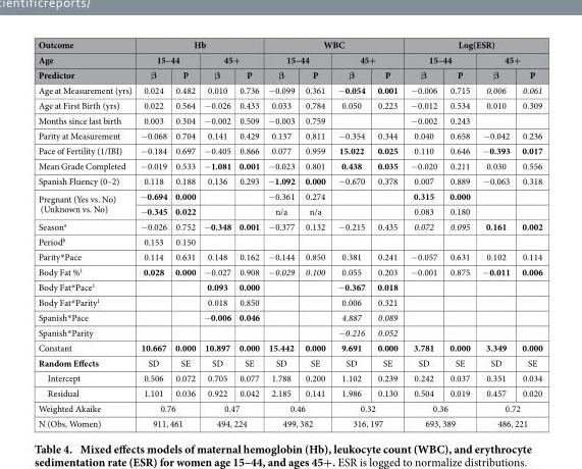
<table><thead><tr><td rowspan="3">Outcome Age Predictor</td><td colspan="4">Hb</td><td colspan="4">WBC</td><td colspan="4">Log(ESR)</td></tr><tr><td colspan="2">15–44</td><td colspan="2">45+</td><td colspan="2">15–44</td><td colspan="2">45+</td><td colspan="2">15–44</td><td colspan="2">45+</td></tr><tr><td>β</td><td>P</td><td>β</td><td>P</td><td>β</td><td>P</td><td>β</td><td>P</td><td>β</td><td>P</td><td>β</td><td>P</td></tr></thead><tbody><tr><td>Age at Measurement (yrs)</td><td>0.024</td><td>0.482</td><td>0.010</td><td>0.736</td><td>− 0.099</td><td>0.361</td><td>− 0.054</td><td>0.001</td><td>− 0.006</td><td>0.715</td><td>0.006</td><td>0.061</td></tr><tr><td>Age at First Birth (yrs)</td><td>0.022</td><td>0.564</td><td>− 0.026</td><td>0.433</td><td>0.033</td><td>0.784</td><td>0.050</td><td>0.223</td><td>− 0.012</td><td>0.534</td><td>0.010</td><td>0.309</td></tr><tr><td>Months since last birth</td><td>0.003</td><td>0.304</td><td>− 0.002</td><td>0.509</td><td>− 0.003</td><td>0.759</td><td></td><td></td><td>− 0.002</td><td>0.243</td><td></td><td></td></tr><tr><td>Parity at Measurement</td><td>− 0.068</td><td>0.704</td><td>0.141</td><td>0.429</td><td>0.137</td><td>0.811</td><td>− 0.354</td><td>0.344</td><td>0.040</td><td>0.658</td><td>− 0.042</td><td>0.236</td></tr><tr><td>Pace of Fertility (1/IBI)</td><td>− 0.184</td><td>0.697</td><td>− 0.405</td><td>0.866</td><td>0.077</td><td>0.959</td><td>15.022</td><td>0.025</td><td>0.110</td><td>0.646</td><td>− 0.393</td><td>0.017</td></tr><tr><td>Mean Grade Completed</td><td>− 0.019</td><td>0.533</td><td>− 1.081</td><td>0.001</td><td>− 0.023</td><td>0.801</td><td>0.438</td><td>0.035</td><td>− 0.020</td><td>0.211</td><td>0.030</td><td>0.556</td></tr><tr><td>Spanish Fluency (0–2)</td><td>0.118</td><td>0.188</td><td>0.136</td><td>0.293</td><td>− 1.092</td><td>0.000</td><td>− 0.670</td><td>0.378</td><td>0.007</td><td>0.889</td><td>− 0.063</td><td>0.318</td></tr><tr><td rowspan="2">Pregnant (Yes vs. No) (Unknown vs. No)</td><td>− 0.694</td><td>0.000</td><td></td><td></td><td>− 0.361</td><td>0.274</td><td></td><td></td><td>0.315</td><td>0.000</td><td></td><td></td></tr><tr><td>− 0.345</td><td>0.022</td><td></td><td></td><td>n/a</td><td>n/a</td><td></td><td></td><td>0.083</td><td>0.180</td><td></td><td></td></tr><tr><td>Season<sup>a</sup></td><td>− 0.026</td><td>0.752</td><td>− 0.348</td><td>0.001</td><td>− 0.377</td><td>0.132</td><td>− 0.215</td><td>0.435</td><td>0.072</td><td>0.095</td><td>0.161</td><td>0.002</td></tr><tr><td>Period<sup>b</sup></td><td>0.153</td><td>0.150</td><td></td><td></td><td></td><td></td><td></td><td></td><td></td><td></td><td></td><td></td></tr><tr><td>Parity* Pace</td><td>0.114</td><td>0.631</td><td>0.148</td><td>0.162</td><td>− 0.144</td><td>0.850</td><td>0.381</td><td>0.241</td><td>− 0.057</td><td>0.631</td><td>0.102</td><td>0.114</td></tr><tr><td>Body Fat %<sup>1</sup></td><td>0.028</td><td>0.000</td><td>− 0.027</td><td>0.908</td><td>− 0.029</td><td>0.100</td><td>0.055</td><td>0.203</td><td>− 0.001</td><td>0.875</td><td>− 0.011</td><td>0.006</td></tr><tr><td>Body Fat* Pace<sup>1</sup></td><td></td><td></td><td>0.093</td><td>0.000</td><td></td><td></td><td>− 0.367</td><td>0.018</td><td></td><td></td><td></td><td></td></tr><tr><td>Body Fat* Parity<sup>1</sup></td><td></td><td></td><td>0.018</td><td>0.850</td><td></td><td></td><td>0.006</td><td>0.321</td><td></td><td></td><td></td><td></td></tr><tr><td>Spanish* Pace</td><td></td><td></td><td>− 0.006</td><td>0.046</td><td></td><td></td><td>4.887</td><td>0.089</td><td></td><td></td><td></td><td></td></tr><tr><td>Spanish* Parity</td><td></td><td></td><td></td><td></td><td></td><td></td><td>− 0.216</td><td>0.052</td><td></td><td></td><td></td><td></td></tr><tr><td>Constant</td><td>10.667</td><td>0.000</td><td>10.897</td><td>0.000</td><td>15.442</td><td>0.000</td><td>9.691</td><td>0.000</td><td>3.781</td><td>0.000</td><td>3.349</td><td>0.000</td></tr><tr><td>Random Effects</td><td>SD</td><td>SE</td><td>SD</td><td>SE</td><td>SD</td><td>SE</td><td>SD</td><td>SE</td><td>SD</td><td>SE</td><td>SD</td><td>SE</td></tr><tr><td>Intercept</td><td>0.506</td><td>0.072</td><td>0.705</td><td>0.077</td><td>1.788</td><td>0.200</td><td>1.102</td><td>0.239</td><td>0.242</td><td>0.037</td><td>0.351</td><td>0.034</td></tr><tr><td>Residual</td><td>1.101</td><td>0.036</td><td>0.922</td><td>0.042</td><td>2.185</td><td>0.141</td><td>1.986</td><td>0.130</td><td>0.504</td><td>0.019</td><td>0.457</td><td>0.020</td></tr><tr><td>Weighted Akaike</td><td colspan="2">0.76</td><td colspan="2">0.47</td><td colspan="2">0.46</td><td colspan="2">0.32</td><td colspan="2">0.36</td><td colspan="2">0.72</td></tr><tr><td>N (Obs, Women)</td><td colspan="2">911, 461</td><td colspan="2">494, 224</td><td colspan="2">499, 382</td><td colspan="2">316, 197</td><td colspan="2">693, 389</td><td colspan="2">486, 221</td></tr></tbody></table>